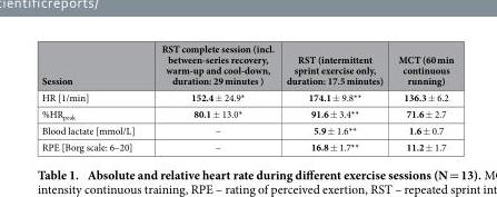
<table><thead><tr><td>Session</td><td>RST complete session (incl. between-series recovery, warm-up and cool-down, duration: 29 minutes )</td><td>RST (intermittent sprint exercise only, duration: 17.5 minutes)</td><td>MCT (60 min continuous running)</td></tr></thead><tbody><tr><td>HR [1/min]</td><td>152.4 ± 24.9*</td><td>174.1 ± 9.8**</td><td>136.3 ± 6.2</td></tr><tr><td>%HR<sub>peak</sub></td><td>80.1 ± 13.0*</td><td>91.6 ± 3.4**</td><td>71.6 ± 2.7</td></tr><tr><td>Blood lactate [mmol/L]</td><td>–</td><td>5.9 ± 1.6**</td><td>1.6 ± 0.7</td></tr><tr><td>RPE [Borg scale: 6–20]</td><td>–</td><td>16.8 ± 1.7**</td><td>11.2 ± 1.7</td></tr></tbody></table>